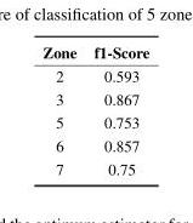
<table><thead><tr><td>Zone</td><td>f1-Score</td></tr></thead><tbody><tr><td>2</td><td>0.593</td></tr><tr><td>3</td><td>0.867</td></tr><tr><td>5</td><td>0.753</td></tr><tr><td>6</td><td>0.857</td></tr><tr><td>7</td><td>0.75</td></tr></tbody></table>